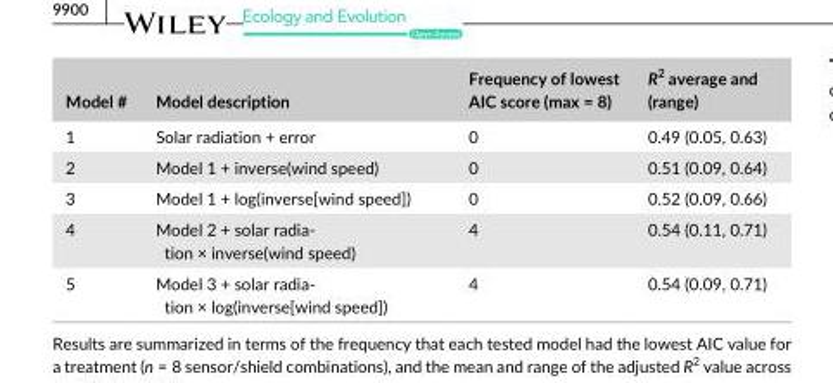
<table><thead><tr><td>Model #</td><td>Model description</td><td>Frequency of lowest AIC score (max = 8)</td><td>R<sup>2</sup> average and (range)</td></tr></thead><tbody><tr><td>1</td><td>Solar radiation + error</td><td>0</td><td>0.49 (0.05, 0.63)</td></tr><tr><td>2</td><td>Model 1 + inverse(wind speed)</td><td>0</td><td>0.51 (0.09, 0.64)</td></tr><tr><td>3</td><td>Model 1 + log(inverse[wind speed])</td><td>0</td><td>0.52 (0.09, 0.66)</td></tr><tr><td>4</td><td>Model 2 + solar radia- tion × inverse(wind speed)</td><td>4</td><td>0.54 (0.11, 0.71)</td></tr><tr><td>5</td><td>Model 3 + solar radia- tion × log(inverse[wind speed])</td><td>4</td><td>0.54 (0.09, 0.71)</td></tr></tbody></table>